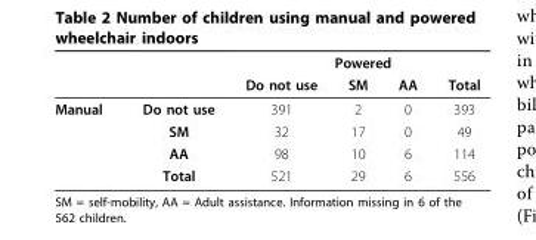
<table><thead><tr><td rowspan="2"></td><td rowspan="2"></td><td colspan="4">Powered</td></tr><tr><td>Do not use</td><td>SM</td><td>AA</td><td>Total</td></tr></thead><tbody><tr><td rowspan="4">Manual</td><td>Do not use</td><td>391</td><td>2</td><td>0</td><td>393</td></tr><tr><td>SM</td><td>32</td><td>17</td><td>0</td><td>49</td></tr><tr><td>AA</td><td>98</td><td>10</td><td>6</td><td>114</td></tr><tr><td>Total</td><td>521</td><td>29</td><td>6</td><td>556</td></tr></tbody></table>